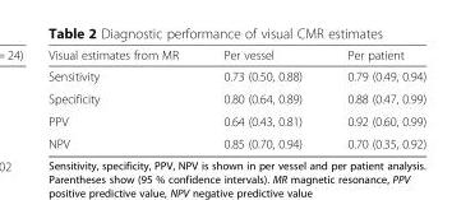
<table><thead><tr><td>Visual estimates from MR</td><td>Per vessel</td><td>Per patient</td></tr></thead><tbody><tr><td>Sensitivity</td><td>0.73 (0.50, 0.88)</td><td>0.79 (0.49, 0.94)</td></tr><tr><td>Specificity</td><td>0.80 (0.64, 0.89)</td><td>0.88 (0.47, 0.99)</td></tr><tr><td>PPV</td><td>0.64 (0.43, 0.81)</td><td>0.92 (0.60, 0.99)</td></tr><tr><td>NPV</td><td>0.85 (0.70, 0.94)</td><td>0.70 (0.35, 0.92)</td></tr></tbody></table>